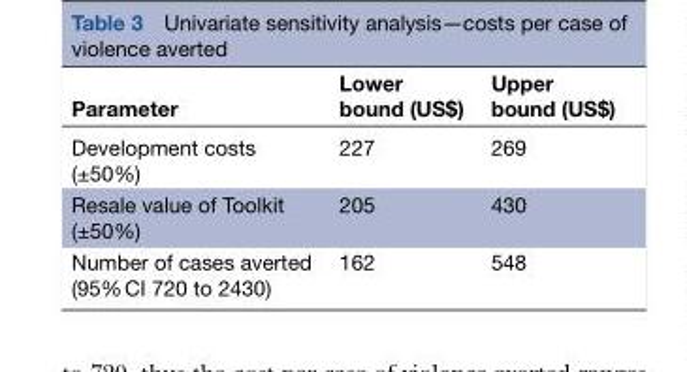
<table><thead><tr><td>Parameter</td><td>Lower bound (US$)</td><td>Upper bound (US$)</td></tr></thead><tbody><tr><td>Development costs (±50%)</td><td>227</td><td>269</td></tr><tr><td>Resale value of Toolkit (±50%)</td><td>205</td><td>430</td></tr><tr><td>Number of cases averted (95% CI 720 to 2430)</td><td>162</td><td>548</td></tr></tbody></table>